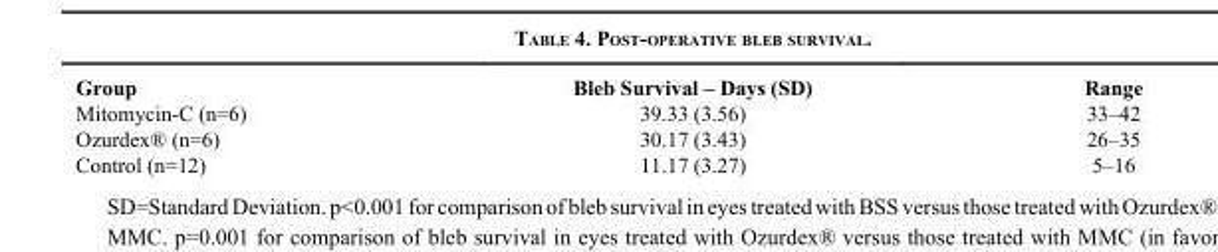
<table><thead><tr><td>Group</td><td>Bleb Survival – Days (SD)</td><td>Range</td></tr></thead><tbody><tr><td>Mitomycin-C (n=6)</td><td>39.33 (3.56)</td><td>33–42</td></tr><tr><td>Ozurdex® (n=6)</td><td>30.17 (3.43)</td><td>26–35</td></tr><tr><td>Control (n=12)</td><td>11.17 (3.27)</td><td>5–16</td></tr></tbody></table>